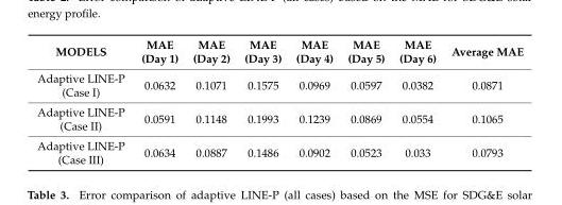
<table><thead><tr><td>MODELS</td><td>MAE (Day 1)</td><td>MAE (Day 2)</td><td>MAE (Day 3)</td><td>MAE (Day 4)</td><td>MAE (Day 5)</td><td>MAE (Day 6)</td><td>Average MAE</td></tr></thead><tbody><tr><td>Adaptive LINE-P (Case I)</td><td>0.0632</td><td>0.1071</td><td>0.1575</td><td>0.0969</td><td>0.0597</td><td>0.0382</td><td>0.0871</td></tr><tr><td>Adaptive LINE-P (Case II)</td><td>0.0591</td><td>0.1148</td><td>0.1993</td><td>0.1239</td><td>0.0869</td><td>0.0554</td><td>0.1065</td></tr><tr><td>Adaptive LINE-P (Case III)</td><td>0.0634</td><td>0.0887</td><td>0.1486</td><td>0.0902</td><td>0.0523</td><td>0.033</td><td>0.0793</td></tr></tbody></table>